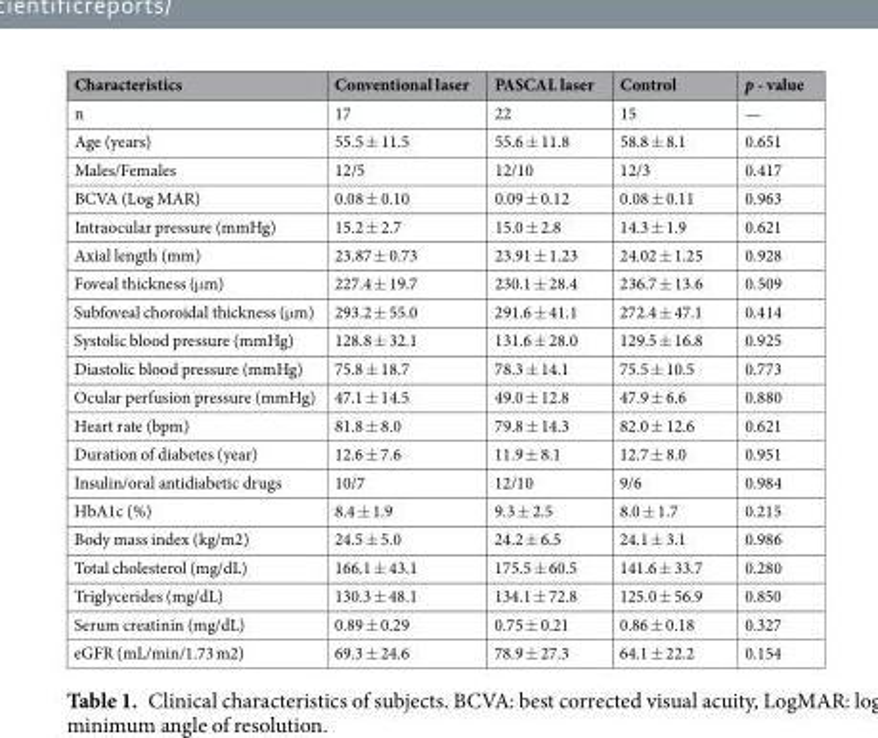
<table><thead><tr><td>Characteristics</td><td>Conventional laser</td><td>PASCAL laser</td><td>Control</td><td>p - value</td></tr></thead><tbody><tr><td>n</td><td>17</td><td>22</td><td>15</td><td>—</td></tr><tr><td>Age (years)</td><td>55.5 ± 11.5</td><td>55.6 ± 11.8</td><td>58.8 ± 8.1</td><td>0.651</td></tr><tr><td>Males/Females</td><td>12/5</td><td>12/10</td><td>12/3</td><td>0.417</td></tr><tr><td>BCVA (Log MAR)</td><td>0.08 ± 0.10</td><td>0.09 ± 0.12</td><td>0.08 ± 0.11</td><td>0.963</td></tr><tr><td>Intraocular pressure (mmHg)</td><td>15.2 ± 2.7</td><td>15.0 ± 2.8</td><td>14.3 ± 1.9</td><td>0.621</td></tr><tr><td>Axial length (mm)</td><td>23.87 ± 0.73</td><td>23.91 ± 1.23</td><td>24.02 ± 1.25</td><td>0.928</td></tr><tr><td>Foveal thickness (μm)</td><td>227.4 ± 19.7</td><td>230.1 ± 28.4</td><td>236.7 ± 13.6</td><td>0.509</td></tr><tr><td>Subfoveal choroidal thickness (μm)</td><td>293.2 ± 55.0</td><td>291.6 ± 41.1</td><td>272.4 ± 47.1</td><td>0.414</td></tr><tr><td>Systolic blood pressure (mmHg)</td><td>128.8 ± 32.1</td><td>131.6 ± 28.0</td><td>129.5 ± 16.8</td><td>0.925</td></tr><tr><td>Diastolic blood pressure (mmHg)</td><td>75.8 ± 18.7</td><td>78.3 ± 14.1</td><td>75.5 ± 10.5</td><td>0.773</td></tr><tr><td>Ocular perfusion pressure (mmHg)</td><td>47.1 ± 14.5</td><td>49.0 ± 12.8</td><td>47.9 ± 6.6</td><td>0.880</td></tr><tr><td>Heart rate (bpm)</td><td>81.8 ± 8.0</td><td>79.8 ± 14.3</td><td>82.0 ± 12.6</td><td>0.621</td></tr><tr><td>Duration of diabetes (year)</td><td>12.6 ± 7.6</td><td>11.9 ± 8.1</td><td>12.7 ± 8.0</td><td>0.951</td></tr><tr><td>Insulin/oral antidiabetic drugs</td><td>10/7</td><td>12/10</td><td>9/6</td><td>0.984</td></tr><tr><td>HbA1c (%)</td><td>8.4 ± 1.9</td><td>9.3 ± 2.5</td><td>8.0 ± 1.7</td><td>0.215</td></tr><tr><td>Body mass index (kg/m2)</td><td>24.5 ± 5.0</td><td>24.2 ± 6.5</td><td>24.1 ± 3.1</td><td>0.986</td></tr><tr><td>Total cholesterol (mg/dL)</td><td>166.1 ± 43.1</td><td>175.5 ± 60.5</td><td>141.6 ± 33.7</td><td>0.280</td></tr><tr><td>Triglycerides (mg/dL)</td><td>130.3 ± 48.1</td><td>134.1 ± 72.8</td><td>125.0 ± 56.9</td><td>0.850</td></tr><tr><td>Serum creatinin (mg/dL)</td><td>0.89 ± 0.29</td><td>0.75 ± 0.21</td><td>0.86 ± 0.18</td><td>0.327</td></tr><tr><td>eGFR (mL/min/1.73 m2)</td><td>69.3 ± 24.6</td><td>78.9 ± 27.3</td><td>64.1 ± 22.2</td><td>0.154</td></tr></tbody></table>